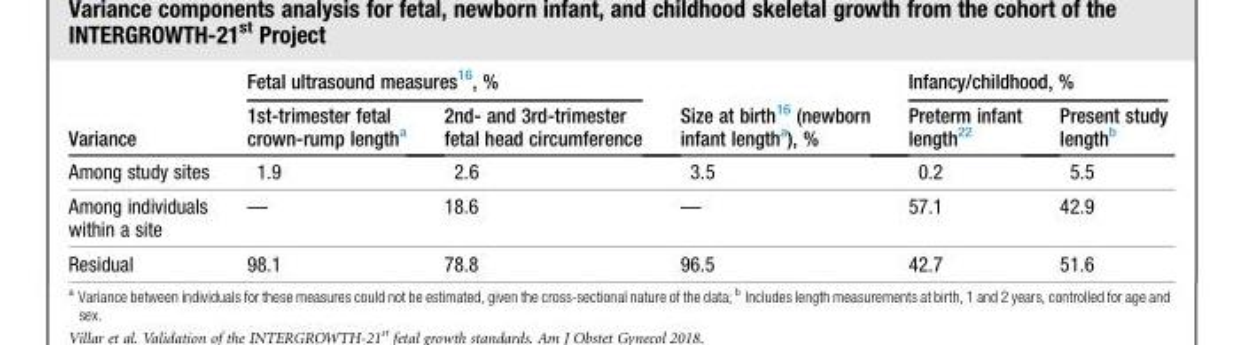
<table><thead><tr><td rowspan="2">Variance</td><td colspan="2">Fetal ultrasound measures<sup>16</sup>, %</td><td rowspan="2">Size at birth<sup>16</sup> (newborn infant length<sup>a</sup>), %</td><td colspan="2">Infancy/childhood, %</td></tr><tr><td>1st-trimester fetal crown-rump length<sup>a</sup></td><td>2nd- and 3rd-trimester fetal head circumference</td><td>Preterm infant length<sup>22</sup></td><td>Present study length<sup>b</sup></td></tr></thead><tbody><tr><td>Among study sites</td><td>1.9</td><td>2.6</td><td>3.5</td><td>0.2</td><td>5.5</td></tr><tr><td>Among individuals within a site</td><td>—</td><td>18.6</td><td>—</td><td>57.1</td><td>42.9</td></tr><tr><td>Residual</td><td>98.1</td><td>78.8</td><td>96.5</td><td>42.7</td><td>51.6</td></tr></tbody></table>